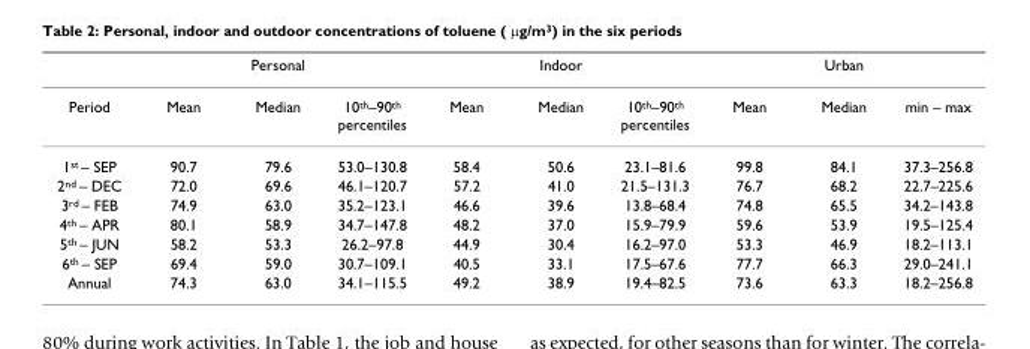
<table><thead><tr><td rowspan="2">Period</td><td colspan="3">Personal</td><td colspan="3">Indoor</td><td colspan="3">Urban</td></tr><tr><td>Mean</td><td>Median</td><td>10th–90th percentiles</td><td>Mean</td><td>Median</td><td>10th–90th percentiles</td><td>Mean</td><td>Median</td><td>min – max</td></tr></thead><tbody><tr><td>1st – SEP</td><td>90.7</td><td>79.6</td><td>53.0–130.8</td><td>58.4</td><td>50.6</td><td>23.1–81.6</td><td>99.8</td><td>84.1</td><td>37.3–256.8</td></tr><tr><td>2nd – DEC</td><td>72.0</td><td>69.6</td><td>46.1–120.7</td><td>57.2</td><td>41.0</td><td>21.5–131.3</td><td>76.7</td><td>68.2</td><td>22.7–225.6</td></tr><tr><td>3rd – FEB</td><td>74.9</td><td>63.0</td><td>35.2–123.1</td><td>46.6</td><td>39.6</td><td>13.8–68.4</td><td>74.8</td><td>65.5</td><td>34.2–143.8</td></tr><tr><td>4th – APR</td><td>80.1</td><td>58.9</td><td>34.7–147.8</td><td>48.2</td><td>37.0</td><td>15.9–79.9</td><td>59.6</td><td>53.9</td><td>19.5–125.4</td></tr><tr><td>5th – JUN</td><td>58.2</td><td>53.3</td><td>26.2–97.8</td><td>44.9</td><td>30.4</td><td>16.2–97.0</td><td>53.3</td><td>46.9</td><td>18.2–113.1</td></tr><tr><td>6th – SEP</td><td>69.4</td><td>59.0</td><td>30.7–109.1</td><td>40.5</td><td>33.1</td><td>17.5–67.6</td><td>77.7</td><td>66.3</td><td>29.0–241.1</td></tr><tr><td>Annual</td><td>74.3</td><td>63.0</td><td>34.1–115.5</td><td>49.2</td><td>38.9</td><td>19.4–82.5</td><td>73.6</td><td>63.3</td><td>18.2–256.8</td></tr></tbody></table>